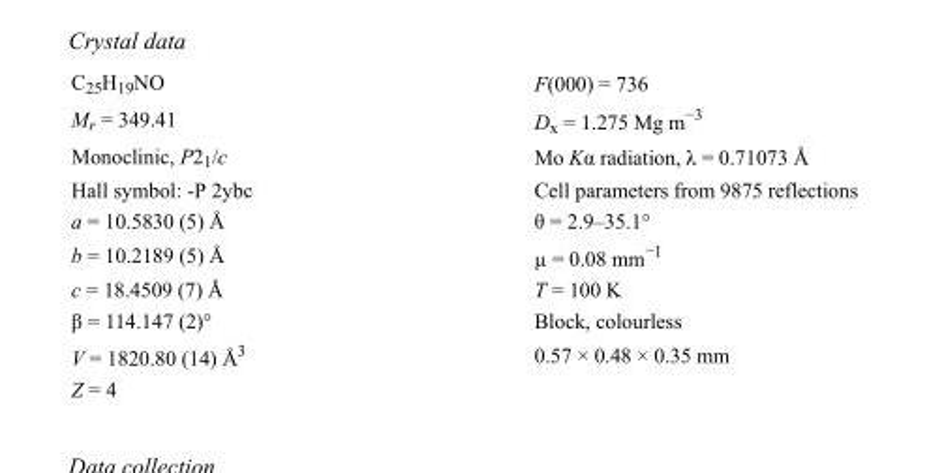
<table><tbody><tr><td>C<sub>25</sub>H<sub>19</sub>NO</td><td>F(000) = 736</td></tr><tr><td>M<sub>r</sub> = 349.41</td><td>D<sub>x</sub> = 1.275 Mg m<sup>−3</sup></td></tr><tr><td>Monoclinic, P2<sub>1</sub>/c</td><td>Mo Kα radiation, λ = 0.71073 Å</td></tr><tr><td>Hall symbol: -P 2ybc</td><td>Cell parameters from 9875 reflections</td></tr><tr><td>a = 10.5830 (5) Å</td><td>θ = 2.9–35.1°</td></tr><tr><td>b = 10.2189 (5) Å</td><td>µ = 0.08 mm<sup>−1</sup></td></tr><tr><td>c = 18.4509 (7) Å</td><td>T = 100 K</td></tr><tr><td>β = 114.147 (2)°</td><td>Block, colourless</td></tr><tr><td>V = 1820.80 (14) Å<sup>3</sup></td><td>0.57 × 0.48 × 0.35 mm</td></tr><tr><td>Z = 4</td><td></td></tr></tbody></table>